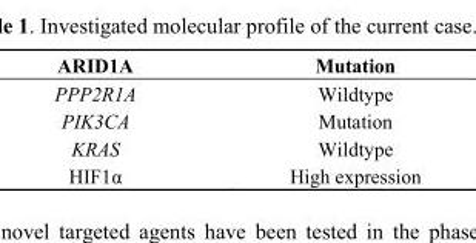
<table><thead><tr><td>ARID1A</td><td>Mutation</td></tr></thead><tbody><tr><td>PPP2R1A</td><td>Wildtype</td></tr><tr><td>PIK3CA</td><td>Mutation</td></tr><tr><td>KRAS</td><td>Wildtype</td></tr><tr><td>HIF1α</td><td>High expression</td></tr></tbody></table>